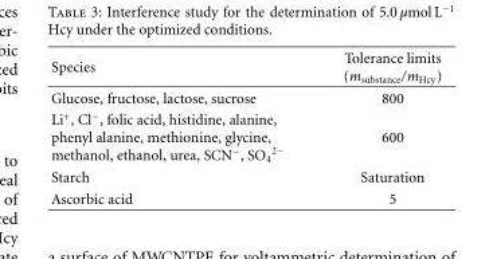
<table><thead><tr><td>Species</td><td>Tolerance limits (m<sub>substance</sub>/m<sub>Hcy</sub>)</td></tr></thead><tbody><tr><td>Glucose, fructose, lactose, sucrose</td><td>800</td></tr><tr><td>Li<sup>+</sup>, Cl<sup>−</sup>, folic acid, histidine, alanine, phenyl alanine, methionine, glycine, methanol, ethanol, urea, SCN<sup>−</sup>, SO<sub>4</sub> <sup>2−</sup></td><td>600</td></tr><tr><td>Starch</td><td>Saturation</td></tr><tr><td>Ascorbic acid</td><td>5</td></tr></tbody></table>